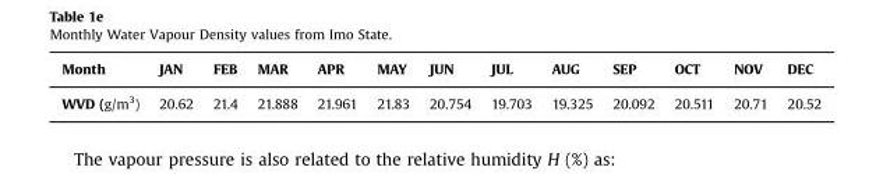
<table><thead><tr><td>Month</td><td>JAN</td><td>FEB</td><td>MAR</td><td>APR</td><td>MAY</td><td>JUN</td><td>JUL</td><td>AUG</td><td>SEP</td><td>OCT</td><td>NOV</td><td>DEC</td></tr></thead><tbody><tr><td>WVD (g/m<sup>3</sup>)</td><td>20.62</td><td>21.4</td><td>21.888</td><td>21.961</td><td>21.83</td><td>20.754</td><td>19.703</td><td>19.325</td><td>20.092</td><td>20.511</td><td>20.71</td><td>20.52</td></tr></tbody></table>